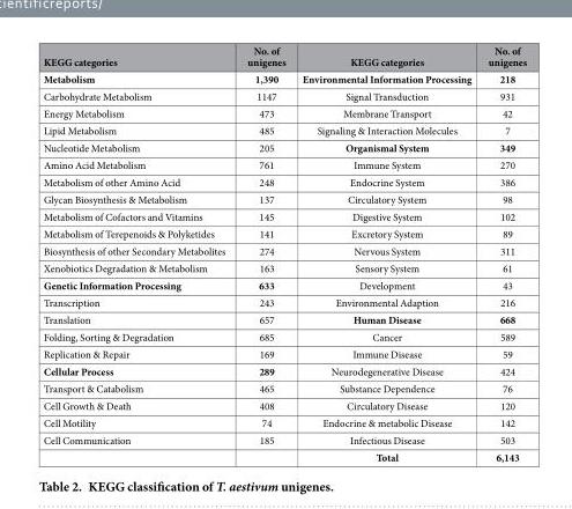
<table><thead><tr><td>KEGG categories</td><td>No. of unigenes</td><td>KEGG categories</td><td>No. of unigenes</td></tr></thead><tbody><tr><td>Metabolism</td><td>1,390</td><td>Environmental Information Processing</td><td>218</td></tr><tr><td>Carbohydrate Metabolism</td><td>1147</td><td>Signal Transduction</td><td>931</td></tr><tr><td>Energy Metabolism</td><td>473</td><td>Membrane Transport</td><td>42</td></tr><tr><td>Lipid Metabolism</td><td>485</td><td>Signaling &amp; Interaction Molecules</td><td>7</td></tr><tr><td>Nucleotide Metabolism</td><td>205</td><td>Organismal System</td><td>349</td></tr><tr><td>Amino Acid Metabolism</td><td>761</td><td>Immune System</td><td>270</td></tr><tr><td>Metabolism of other Amino Acid</td><td>248</td><td>Endocrine System</td><td>386</td></tr><tr><td>Glycan Biosynthesis &amp; Metabolism</td><td>137</td><td>Circulatory System</td><td>98</td></tr><tr><td>Metabolism of Cofactors and Vitamins</td><td>145</td><td>Digestive System</td><td>102</td></tr><tr><td>Metabolism of Terepenoids &amp; Polyketides</td><td>141</td><td>Excretory System</td><td>89</td></tr><tr><td>Biosynthesis of other Secondary Metabolites</td><td>274</td><td>Nervous System</td><td>311</td></tr><tr><td>Xenobiotics Degradation &amp; Metabolism</td><td>163</td><td>Sensory System</td><td>61</td></tr><tr><td>Genetic Information Processing</td><td>633</td><td>Development</td><td>43</td></tr><tr><td>Transcription</td><td>243</td><td>Environmental Adaption</td><td>216</td></tr><tr><td>Translation</td><td>657</td><td>Human Disease</td><td>668</td></tr><tr><td>Folding, Sorting &amp; Degradation</td><td>685</td><td>Cancer</td><td>589</td></tr><tr><td>Replication &amp; Repair</td><td>169</td><td>Immune Disease</td><td>59</td></tr><tr><td>Cellular Process</td><td>289</td><td>Neurodegenerative Disease</td><td>424</td></tr><tr><td>Transport &amp; Catabolism</td><td>465</td><td>Substance Dependence</td><td>76</td></tr><tr><td>Cell Growth &amp; Death</td><td>408</td><td>Circulatory Disease</td><td>120</td></tr><tr><td>Cell Motility</td><td>74</td><td>Endocrine &amp; metabolic Disease</td><td>142</td></tr><tr><td rowspan="2">Cell Communication</td><td>185</td><td>Infectious Disease</td><td>503</td></tr><tr><td></td><td>Total</td><td>6,143</td></tr></tbody></table>